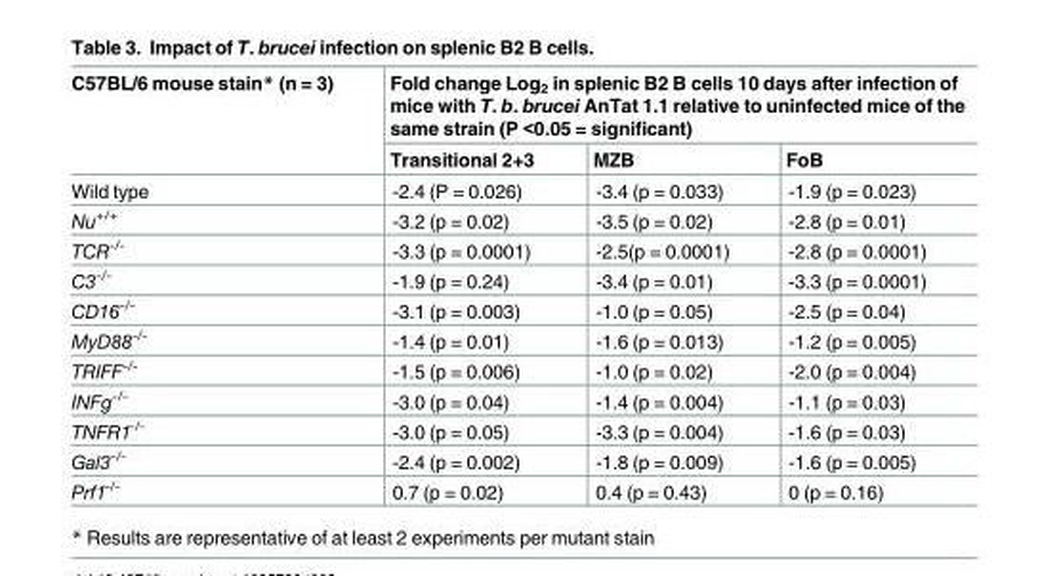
<table><thead><tr><td rowspan="2">C57BL/6 mouse stain* (n = 3)</td><td colspan="3">Fold change Log<sub>2</sub> in splenic B2 B cells 10 days after infection of mice with T. b. brucei AnTat 1.1 relative to uninfected mice of the same strain (P &lt;0.05 = significant)</td></tr><tr><td>Transitional 2+3</td><td>MZB</td><td>FoB</td></tr></thead><tbody><tr><td>Wild type</td><td>-2.4 (P = 0.026)</td><td>-3.4 (p = 0.033)</td><td>-1.9 (p = 0.023)</td></tr><tr><td>Nu<sup>+/+</sup></td><td>-3.2 (p = 0.02)</td><td>-3.5 (p = 0.02)</td><td>-2.8 (p = 0.01)</td></tr><tr><td>TCR<sup>-/-</sup></td><td>-3.3 (p = 0.0001)</td><td>-2.5(p = 0.0001)</td><td>-2.8 (p = 0.0001)</td></tr><tr><td>C3<sup>-/-</sup></td><td>-1.9 (p = 0.24)</td><td>-3.4 (p = 0.01)</td><td>-3.3 (p = 0.0001)</td></tr><tr><td>CD16<sup>-/-</sup></td><td>-3.1 (p = 0.003)</td><td>-1.0 (p = 0.05)</td><td>-2.5 (p = 0.04)</td></tr><tr><td>MyD88<sup>-/-</sup></td><td>-1.4 (p = 0.01)</td><td>-1.6 (p = 0.013)</td><td>-1.2 (p = 0.005)</td></tr><tr><td>TRIFF<sup>-/-</sup></td><td>-1.5 (p = 0.006)</td><td>-1.0 (p = 0.02)</td><td>-2.0 (p = 0.004)</td></tr><tr><td>INFg<sup>-/-</sup></td><td>-3.0 (p = 0.04)</td><td>-1.4 (p = 0.004)</td><td>-1.1 (p = 0.03)</td></tr><tr><td>TNFR1<sup>-/-</sup></td><td>-3.0 (p = 0.05)</td><td>-3.3 (p = 0.004)</td><td>-1.6 (p = 0.03)</td></tr><tr><td>Gal3<sup>-/-</sup></td><td>-2.4 (p = 0.002)</td><td>-1.8 (p = 0.009)</td><td>-1.6 (p = 0.005)</td></tr><tr><td>Prf1<sup>-/-</sup></td><td>0.7 (p = 0.02)</td><td>0.4 (p = 0.43)</td><td>0 (p = 0.16)</td></tr></tbody></table>